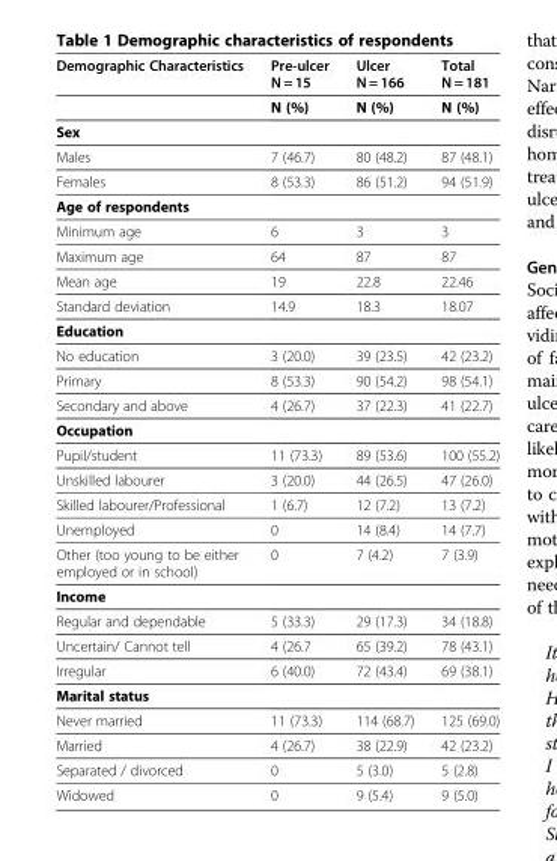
<table><thead><tr><td>Demographic Characteristics</td><td>Pre-ulcer N = 15</td><td>Ulcer N = 166</td><td>Total N = 181</td></tr></thead><tbody><tr><td></td><td>N (%)</td><td>N (%)</td><td>N (%)</td></tr><tr><td colspan="4">Sex</td></tr><tr><td>Males</td><td>7 (46.7)</td><td>80 (48.2)</td><td>87 (48.1)</td></tr><tr><td>Females</td><td>8 (53.3)</td><td>86 (51.2)</td><td>94 (51.9)</td></tr><tr><td colspan="4">Age of respondents</td></tr><tr><td>Minimum age</td><td>6</td><td>3</td><td>3</td></tr><tr><td>Maximum age</td><td>64</td><td>87</td><td>87</td></tr><tr><td>Mean age</td><td>19</td><td>22.8</td><td>22.46</td></tr><tr><td>Standard deviation</td><td>14.9</td><td>18.3</td><td>18.07</td></tr><tr><td colspan="4">Education</td></tr><tr><td>No education</td><td>3 (20.0)</td><td>39 (23.5)</td><td>42 (23.2)</td></tr><tr><td>Primary</td><td>8 (53.3)</td><td>90 (54.2)</td><td>98 (54.1)</td></tr><tr><td>Secondary and above</td><td>4 (26.7)</td><td>37 (22.3)</td><td>41 (22.7)</td></tr><tr><td colspan="4">Occupation</td></tr><tr><td>Pupil/student</td><td>11 (73.3)</td><td>89 (53.6)</td><td>100 (55.2)</td></tr><tr><td>Unskilled labourer</td><td>3 (20.0)</td><td>44 (26.5)</td><td>47 (26.0)</td></tr><tr><td>Skilled labourer/Professional</td><td>1 (6.7)</td><td>12 (7.2)</td><td>13 (7.2)</td></tr><tr><td>Unemployed</td><td>0</td><td>14 (8.4)</td><td>14 (7.7)</td></tr><tr><td>Other (too young to be either employed or in school)</td><td>0</td><td>7 (4.2)</td><td>7 (3.9)</td></tr><tr><td colspan="4">Income</td></tr><tr><td>Regular and dependable</td><td>5 (33.3)</td><td>29 (17.3)</td><td>34 (18.8)</td></tr><tr><td>Uncertain/ Cannot tell</td><td>4 (26.7</td><td>65 (39.2)</td><td>78 (43.1)</td></tr><tr><td>Irregular</td><td>6 (40.0)</td><td>72 (43.4)</td><td>69 (38.1)</td></tr><tr><td colspan="4">Marital status</td></tr><tr><td>Never married</td><td>11 (73.3)</td><td>114 (68.7)</td><td>125 (69.0)</td></tr><tr><td>Married</td><td>4 (26.7)</td><td>38 (22.9)</td><td>42 (23.2)</td></tr><tr><td>Separated / divorced</td><td>0</td><td>5 (3.0)</td><td>5 (2.8)</td></tr><tr><td>Widowed</td><td>0</td><td>9 (5.4)</td><td>9 (5.0)</td></tr></tbody></table>